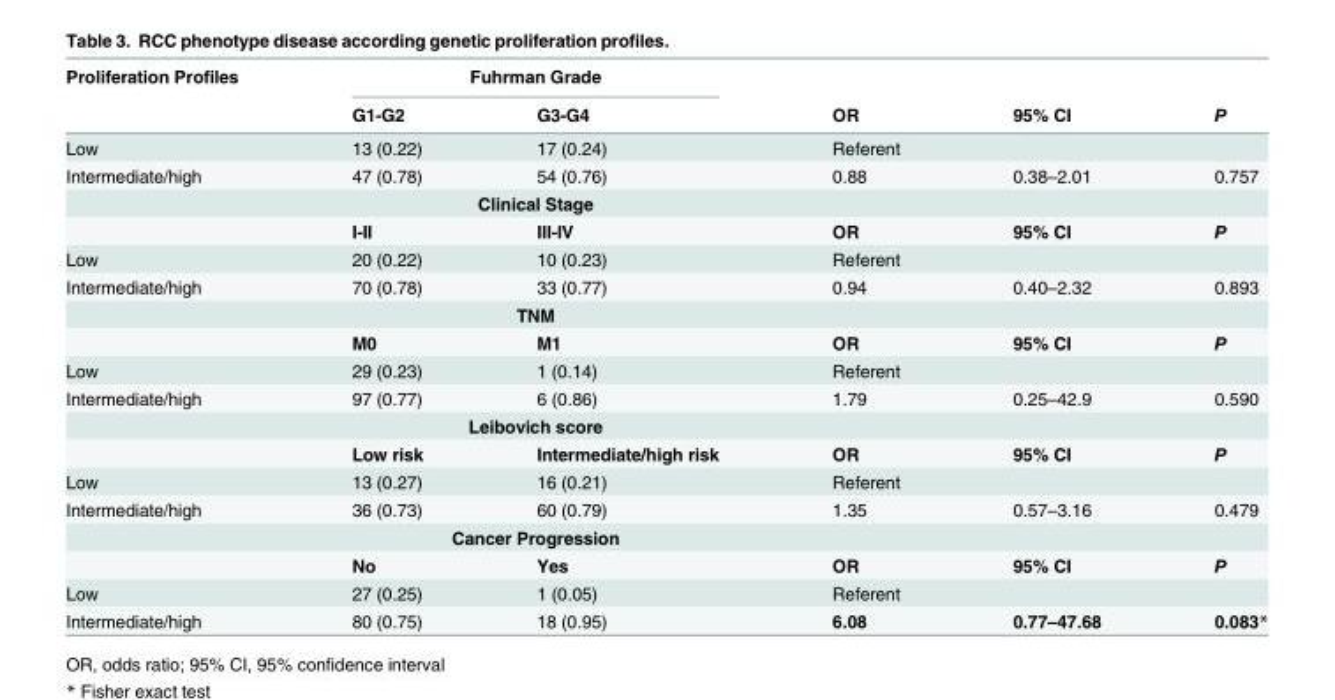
<table><thead><tr><td rowspan="2">Proliferation Profiles</td><td colspan="2">Fuhrman Grade</td><td rowspan="2">OR</td><td rowspan="2">95% CI</td><td rowspan="2">P</td></tr><tr><td>G1-G2</td><td>G3-G4</td></tr></thead><tbody><tr><td>Low</td><td>13 (0.22)</td><td>17 (0.24)</td><td>Referent</td><td></td><td></td></tr><tr><td rowspan="3">Intermediate/high</td><td>47 (0.78)</td><td>54 (0.76)</td><td>0.88</td><td>0.38–2.01</td><td>0.757</td></tr><tr><td colspan="2">Clinical Stage</td><td></td><td></td><td></td></tr><tr><td>I-II</td><td>III-IV</td><td>OR</td><td>95% CI</td><td>P</td></tr><tr><td>Low</td><td>20 (0.22)</td><td>10 (0.23)</td><td>Referent</td><td></td><td></td></tr><tr><td rowspan="3">Intermediate/high</td><td>70 (0.78)</td><td>33 (0.77)</td><td>0.94</td><td>0.40–2.32</td><td>0.893</td></tr><tr><td colspan="2">TNM</td><td></td><td></td><td></td></tr><tr><td>M0</td><td>M1</td><td>OR</td><td>95% CI</td><td>P</td></tr><tr><td>Low</td><td>29 (0.23)</td><td>1 (0.14)</td><td>Referent</td><td></td><td></td></tr><tr><td rowspan="3">Intermediate/high</td><td>97 (0.77)</td><td>6 (0.86)</td><td>1.79</td><td>0.25–42.9</td><td>0.590</td></tr><tr><td colspan="2">Leibovich score</td><td></td><td></td><td></td></tr><tr><td>Low risk</td><td>Intermediate/high risk</td><td>OR</td><td>95% CI</td><td>P</td></tr><tr><td>Low</td><td>13 (0.27)</td><td>16 (0.21)</td><td>Referent</td><td></td><td></td></tr><tr><td rowspan="3">Intermediate/high</td><td>36 (0.73)</td><td>60 (0.79)</td><td>1.35</td><td>0.57–3.16</td><td>0.479</td></tr><tr><td colspan="2">Cancer Progression</td><td></td><td></td><td></td></tr><tr><td>No</td><td>Yes</td><td>OR</td><td>95% CI</td><td>P</td></tr><tr><td>Low</td><td>27 (0.25)</td><td>1 (0.05)</td><td>Referent</td><td></td><td></td></tr><tr><td>Intermediate/high</td><td>80 (0.75)</td><td>18 (0.95)</td><td>6.08</td><td>0.77–47.68</td><td>0.083*</td></tr></tbody></table>